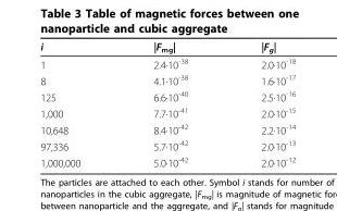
<table><thead><tr><td>i</td><td>|F<sub>mg</sub>|</td><td>|F<sub>g</sub>|</td></tr></thead><tbody><tr><td>1</td><td>2.4·10<sup>-38</sup></td><td>2.0·10<sup>-18</sup></td></tr><tr><td>8</td><td>4.1·10<sup>-38</sup></td><td>1.6·10<sup>-17</sup></td></tr><tr><td>125</td><td>6.6·10<sup>-40</sup></td><td>2.5·10<sup>-16</sup></td></tr><tr><td>1,000</td><td>7.7·10<sup>-41</sup></td><td>2.0·10<sup>-15</sup></td></tr><tr><td>10,648</td><td>8.4·10<sup>-42</sup></td><td>2.2·10<sup>-14</sup></td></tr><tr><td>97,336</td><td>5.7·10<sup>-42</sup></td><td>2.0·10<sup>-13</sup></td></tr><tr><td>1,000,000</td><td>5.0·10<sup>-42</sup></td><td>2.0·10<sup>-12</sup></td></tr></tbody></table>